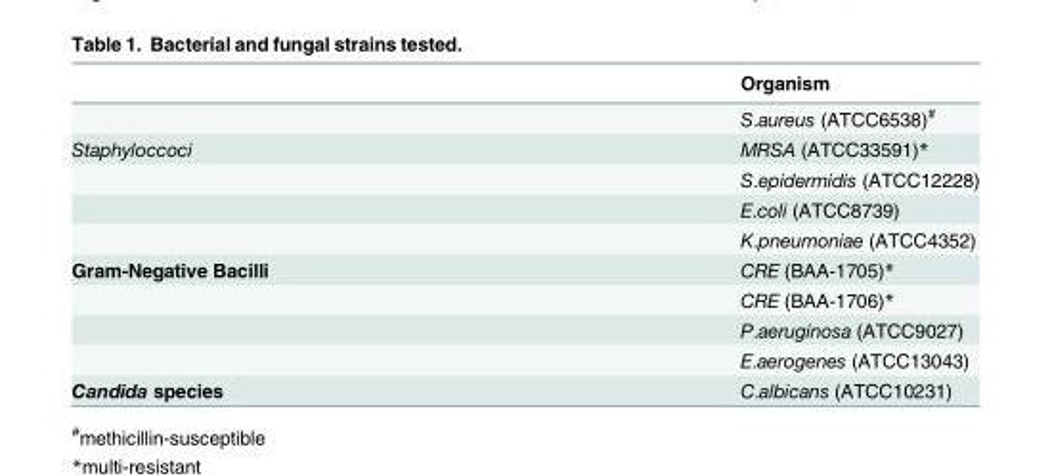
<table><thead><tr><td></td><td>Organism</td></tr></thead><tbody><tr><td></td><td>S.aureus (ATCC6538)<sup>#</sup></td></tr><tr><td rowspan="4">Staphyloccoci</td><td>MRSA (ATCC33591)*</td></tr><tr><td>S.epidermidis (ATCC12228)</td></tr><tr><td>E.coli (ATCC8739)</td></tr><tr><td>K.pneumoniae (ATCC4352)</td></tr><tr><td rowspan="4">Gram-Negative Bacilli</td><td>CRE (BAA-1705)*</td></tr><tr><td>CRE (BAA-1706)*</td></tr><tr><td>P.aeruginosa (ATCC9027)</td></tr><tr><td>E.aerogenes (ATCC13043)</td></tr><tr><td>Candida species</td><td>C.albicans (ATCC10231)</td></tr></tbody></table>